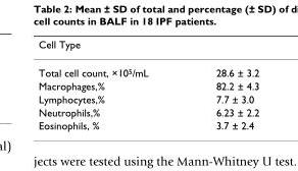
<table><thead><tr><td>Cell Type</td><td></td></tr></thead><tbody><tr><td>Total cell count, ×105/mL</td><td>28.6 ± 3.2</td></tr><tr><td>Macrophages,%</td><td>82.2 ± 4.3</td></tr><tr><td>Lymphocytes,%</td><td>7.7 ± 3.0</td></tr><tr><td>Neutrophils,%</td><td>6.23 ± 2.2</td></tr><tr><td>Eosinophils, %</td><td>3.7 ± 2.4</td></tr></tbody></table>